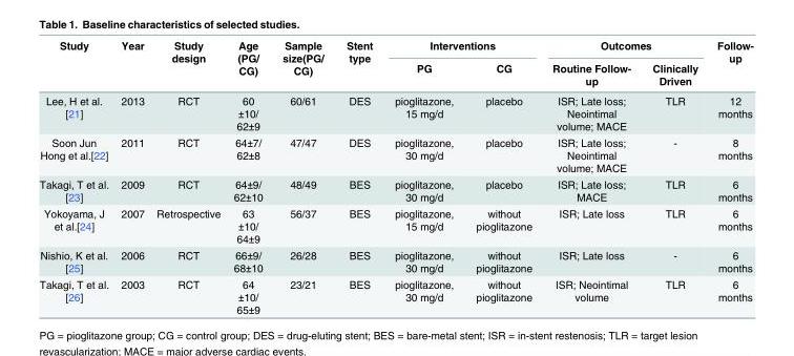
<table><thead><tr><td rowspan="2">Study</td><td rowspan="2">Year</td><td rowspan="2">Study design</td><td rowspan="2">Age (PG/ CG)</td><td rowspan="2">Sample size(PG/ CG)</td><td rowspan="2">Stent type</td><td colspan="2">Interventions</td><td colspan="2">Outcomes</td><td rowspan="2">Follow- up</td></tr><tr><td>PG</td><td>CG</td><td>Routine Follow- up</td><td>Clinically Driven</td></tr></thead><tbody><tr><td>Lee, H et al. [21]</td><td>2013</td><td>RCT</td><td>60 ±10/ 62±9</td><td>60/61</td><td>DES</td><td>pioglitazone, 15 mg/d</td><td>placebo</td><td>ISR; Late loss; Neointimal volume; MACE</td><td>TLR</td><td>12 months</td></tr><tr><td>Soon Jun Hong et al.[22]</td><td>2011</td><td>RCT</td><td>64±7/ 62±8</td><td>47/47</td><td>DES</td><td>pioglitazone, 30 mg/d</td><td>placebo</td><td>ISR; Late loss; Neointimal volume; MACE</td><td>-</td><td>8 months</td></tr><tr><td>Takagi, T et al. [23]</td><td>2009</td><td>RCT</td><td>64±9/ 62±10</td><td>48/49</td><td>BES</td><td>pioglitazone, 30 mg/d</td><td>placebo</td><td>ISR; Late loss; MACE</td><td>TLR</td><td>6 months</td></tr><tr><td>Yokoyama, J et al.[24]</td><td>2007</td><td>Retrospective</td><td>63 ±10/ 64±9</td><td>56/37</td><td>BES</td><td>pioglitazone, 15 mg/d</td><td>without pioglitazone</td><td>ISR; Late loss</td><td>TLR</td><td>6 months</td></tr><tr><td>Nishio, K et al. [25]</td><td>2006</td><td>RCT</td><td>66±9/ 68±10</td><td>26/28</td><td>BES</td><td>pioglitazone, 30 mg/d</td><td>without pioglitazone</td><td>ISR; Late loss</td><td>-</td><td>6 months</td></tr><tr><td>Takagi, T et al. [26]</td><td>2003</td><td>RCT</td><td>64 ±10/ 65±9</td><td>23/21</td><td>BES</td><td>pioglitazone, 30 mg/d</td><td>without pioglitazone</td><td>ISR; Neointimal volume</td><td>TLR</td><td>6 months</td></tr></tbody></table>